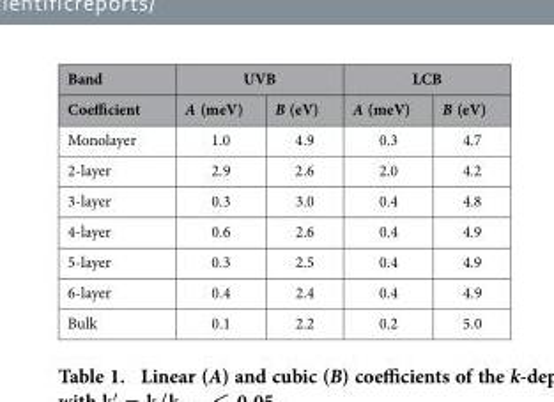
<table><thead><tr><td rowspan="2">Band Coefficient</td><td colspan="2">UVB</td><td colspan="2">LCB</td></tr><tr><td>A (meV)</td><td>B (eV)</td><td>A (meV)</td><td>B (eV)</td></tr></thead><tbody><tr><td>Monolayer</td><td>1.0</td><td>4.9</td><td>0.3</td><td>4.7</td></tr><tr><td>2-layer</td><td>2.9</td><td>2.6</td><td>2.0</td><td>4.2</td></tr><tr><td>3-layer</td><td>0.3</td><td>3.0</td><td>0.4</td><td>4.8</td></tr><tr><td>4-layer</td><td>0.6</td><td>2.6</td><td>0.4</td><td>4.9</td></tr><tr><td>5-layer</td><td>0.3</td><td>2.5</td><td>0.4</td><td>4.9</td></tr><tr><td>6-layer</td><td>0.4</td><td>2.4</td><td>0.4</td><td>4.9</td></tr><tr><td>Bulk</td><td>0.1</td><td>2.2</td><td>0.2</td><td>5.0</td></tr></tbody></table>